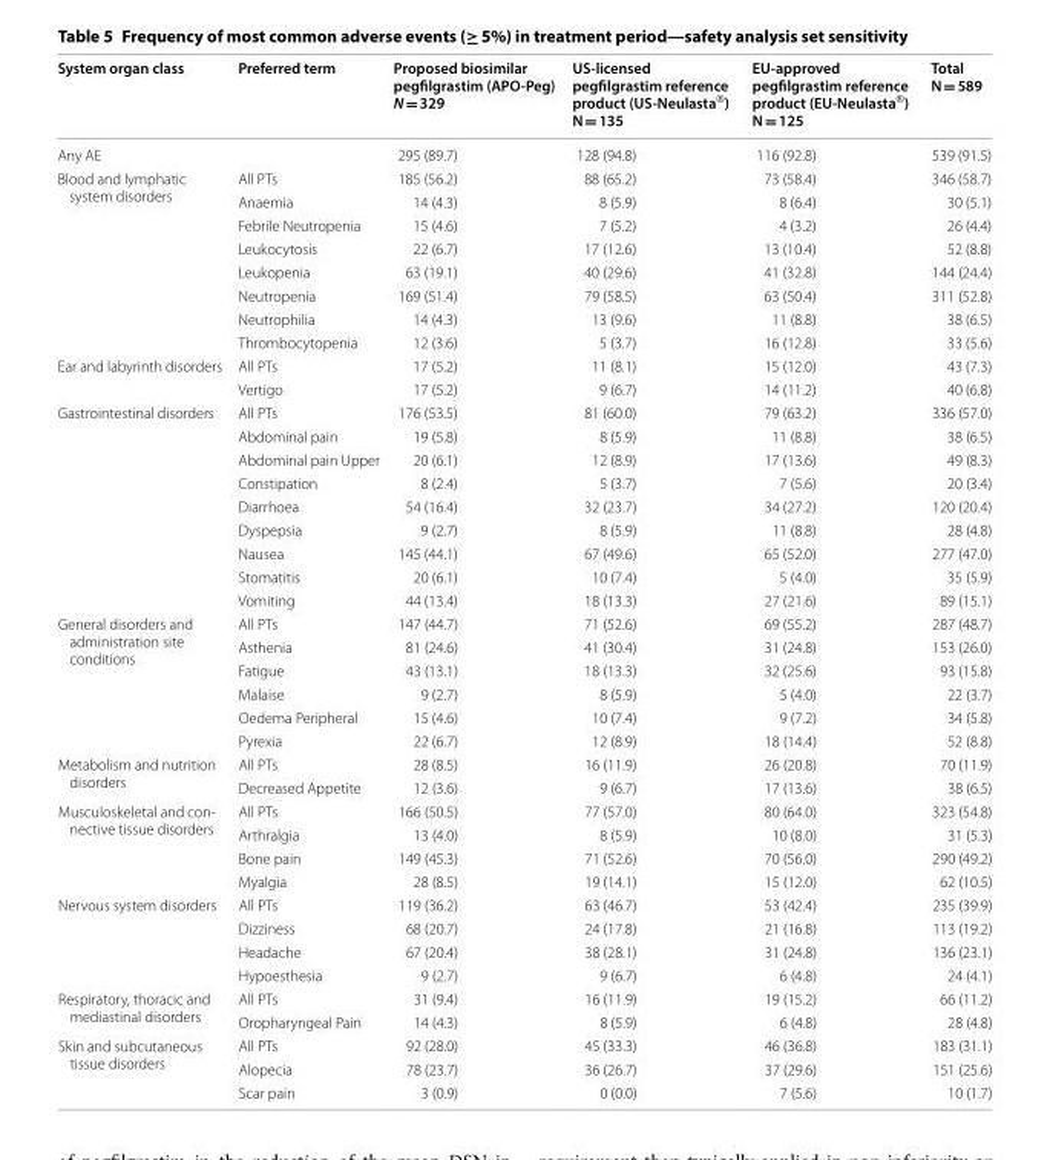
<table><thead><tr><td>System organ class</td><td>Preferred term</td><td>Proposed biosimilar pegfilgrastim (APO-Peg) N = 329</td><td>US-licensed pegfilgrastim reference product (US-Neulasta<sup>®</sup>) N = 135</td><td>EU-approved pegfilgrastim reference product (EU-Neulasta<sup>®</sup>) N = 125</td><td>Total N = 589</td></tr></thead><tbody><tr><td>Any AE</td><td></td><td>295 (89.7)</td><td>128 (94.8)</td><td>116 (92.8)</td><td>539 (91.5)</td></tr><tr><td rowspan="8">Blood and lymphatic system disorders</td><td>All PTs</td><td>185 (56.2)</td><td>88 (65.2)</td><td>73 (58.4)</td><td>346 (58.7)</td></tr><tr><td>Anaemia</td><td>14 (4.3)</td><td>8 (5.9)</td><td>8 (6.4)</td><td>30 (5.1)</td></tr><tr><td>Febrile Neutropenia</td><td>15 (4.6)</td><td>7 (5.2)</td><td>4 (3.2)</td><td>26 (4.4)</td></tr><tr><td>Leukocytosis</td><td>22 (6.7)</td><td>17 (12.6)</td><td>13 (10.4)</td><td>52 (8.8)</td></tr><tr><td>Leukopenia</td><td>63 (19.1)</td><td>40 (29.6)</td><td>41 (32.8)</td><td>144 (24.4)</td></tr><tr><td>Neutropenia</td><td>169 (51.4)</td><td>79 (58.5)</td><td>63 (50.4)</td><td>311 (52.8)</td></tr><tr><td>Neutrophilia</td><td>14 (4.3)</td><td>13 (9.6)</td><td>11 (8.8)</td><td>38 (6.5)</td></tr><tr><td>Thrombocytopenia</td><td>12 (3.6)</td><td>5 (3.7)</td><td>16 (12.8)</td><td>33 (5.6)</td></tr><tr><td rowspan="2">Ear and labyrinth disorders</td><td>All PTs</td><td>17 (5.2)</td><td>11 (8.1)</td><td>15 (12.0)</td><td>43 (7.3)</td></tr><tr><td>Vertigo</td><td>17 (5.2)</td><td>9 (6.7)</td><td>14 (11.2)</td><td>40 (6.8)</td></tr><tr><td rowspan="9">Gastrointestinal disorders</td><td>All PTs</td><td>176 (53.5)</td><td>81 (60.0)</td><td>79 (63.2)</td><td>336 (57.0)</td></tr><tr><td>Abdominal pain</td><td>19 (5.8)</td><td>8 (5.9)</td><td>11 (8.8)</td><td>38 (6.5)</td></tr><tr><td>Abdominal pain Upper</td><td>20 (6.1)</td><td>12 (8.9)</td><td>17 (13.6)</td><td>49 (8.3)</td></tr><tr><td>Constipation</td><td>8 (2.4)</td><td>5 (3.7)</td><td>7 (5.6)</td><td>20 (3.4)</td></tr><tr><td>Diarrhoea</td><td>54 (16.4)</td><td>32 (23.7)</td><td>34 (27.2)</td><td>120 (20.4)</td></tr><tr><td>Dyspepsia</td><td>9 (2.7)</td><td>8 (5.9)</td><td>11 (8.8)</td><td>28 (4.8)</td></tr><tr><td>Nausea</td><td>145 (44.1)</td><td>67 (49.6)</td><td>65 (52.0)</td><td>277 (47.0)</td></tr><tr><td>Stomatitis</td><td>20 (6.1)</td><td>10 (7.4)</td><td>5 (4.0)</td><td>35 (5.9)</td></tr><tr><td>Vomiting</td><td>44 (13.4)</td><td>18 (13.3)</td><td>27 (21.6)</td><td>89 (15.1)</td></tr><tr><td rowspan="6">General disorders and administration site conditions</td><td>All PTs</td><td>147 (44.7)</td><td>71 (52.6)</td><td>69 (55.2)</td><td>287 (48.7)</td></tr><tr><td>Asthenia</td><td>81 (24.6)</td><td>41 (30.4)</td><td>31 (24.8)</td><td>153 (26.0)</td></tr><tr><td>Fatigue</td><td>43 (13.1)</td><td>18 (13.3)</td><td>32 (25.6)</td><td>93 (15.8)</td></tr><tr><td>Malaise</td><td>9 (2.7)</td><td>8 (5.9)</td><td>5 (4.0)</td><td>22 (3.7)</td></tr><tr><td>Oedema Peripheral</td><td>15 (4.6)</td><td>10 (7.4)</td><td>9 (7.2)</td><td>34 (5.8)</td></tr><tr><td>Pyrexia</td><td>22 (6.7)</td><td>12 (8.9)</td><td>18 (14.4)</td><td>52 (8.8)</td></tr><tr><td rowspan="2">Metabolism and nutrition disorders</td><td>All PTs</td><td>28 (8.5)</td><td>16 (11.9)</td><td>26 (20.8)</td><td>70 (11.9)</td></tr><tr><td>Decreased Appetite</td><td>12 (3.6)</td><td>9 (6.7)</td><td>17 (13.6)</td><td>38 (6.5)</td></tr><tr><td rowspan="4">Musculoskeletal and con- nective tissue disorders</td><td>All PTs</td><td>166 (50.5)</td><td>77 (57.0)</td><td>80 (64.0)</td><td>323 (54.8)</td></tr><tr><td>Arthralgia</td><td>13 (4.0)</td><td>8 (5.9)</td><td>10 (8.0)</td><td>31 (5.3)</td></tr><tr><td>Bone pain</td><td>149 (45.3)</td><td>71 (52.6)</td><td>70 (56.0)</td><td>290 (49.2)</td></tr><tr><td>Myalgia</td><td>28 (8.5)</td><td>19 (14.1)</td><td>15 (12.0)</td><td>62 (10.5)</td></tr><tr><td rowspan="4">Nervous system disorders</td><td>All PTs</td><td>119 (36.2)</td><td>63 (46.7)</td><td>53 (42.4)</td><td>235 (39.9)</td></tr><tr><td>Dizziness</td><td>68 (20.7)</td><td>24 (17.8)</td><td>21 (16.8)</td><td>113 (19.2)</td></tr><tr><td>Headache</td><td>67 (20.4)</td><td>38 (28.1)</td><td>31 (24.8)</td><td>136 (23.1)</td></tr><tr><td>Hypoesthesia</td><td>9 (2.7)</td><td>9 (6.7)</td><td>6 (4.8)</td><td>24 (4.1)</td></tr><tr><td rowspan="2">Respiratory, thoracic and mediastinal disorders</td><td>All PTs</td><td>31 (9.4)</td><td>16 (11.9)</td><td>19 (15.2)</td><td>66 (11.2)</td></tr><tr><td>Oropharyngeal Pain</td><td>14 (4.3)</td><td>8 (5.9)</td><td>6 (4.8)</td><td>28 (4.8)</td></tr><tr><td rowspan="3">Skin and subcutaneous tissue disorders</td><td>All PTs</td><td>92 (28.0)</td><td>45 (33.3)</td><td>46 (36.8)</td><td>183 (31.1)</td></tr><tr><td>Alopecia</td><td>78 (23.7)</td><td>36 (26.7)</td><td>37 (29.6)</td><td>151 (25.6)</td></tr><tr><td>Scar pain</td><td>3 (0.9)</td><td>0 (0.0)</td><td>7 (5.6)</td><td>10 (1.7)</td></tr></tbody></table>